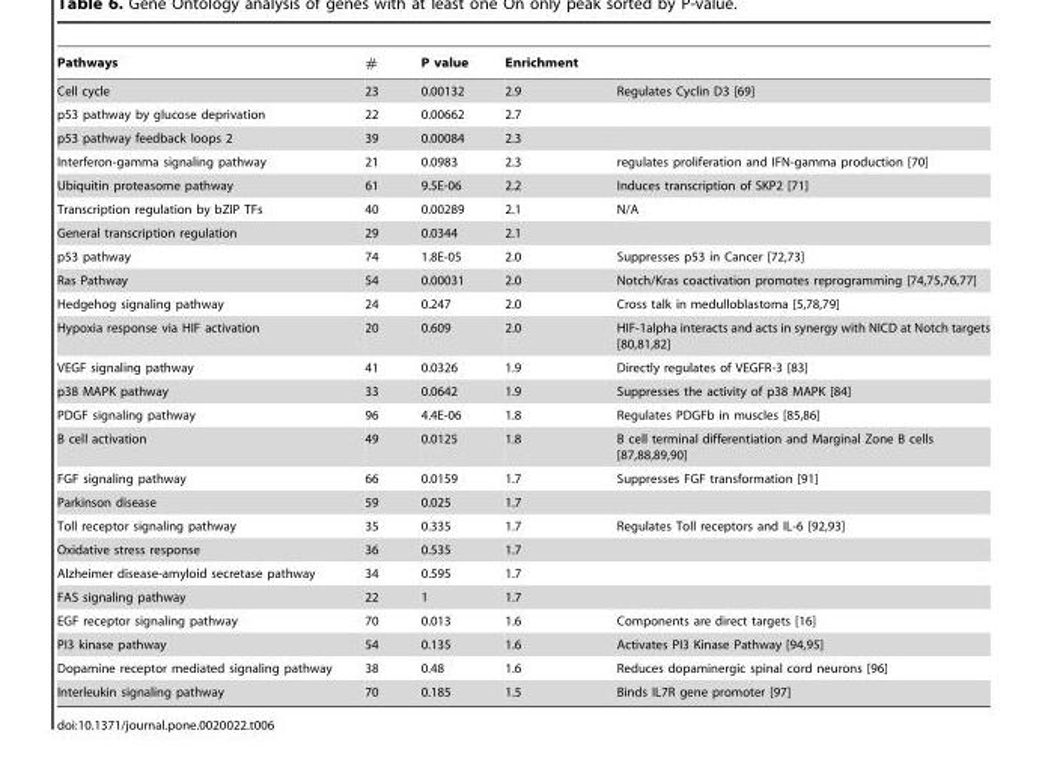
<table><thead><tr><td>Pathways</td><td>#</td><td>P value</td><td>Enrichment</td><td></td></tr></thead><tbody><tr><td>Cell cycle</td><td>23</td><td>0.00132</td><td>2.9</td><td>Regulates Cyclin D3 [69]</td></tr><tr><td>p53 pathway by glucose deprivation</td><td>22</td><td>0.00662</td><td>2.7</td><td></td></tr><tr><td>p53 pathway feedback loops 2</td><td>39</td><td>0.00084</td><td>2.3</td><td></td></tr><tr><td>Interferon-gamma signaling pathway</td><td>21</td><td>0.0983</td><td>2.3</td><td>regulates proliferation and IFN-gamma production [70]</td></tr><tr><td>Ubiquitin proteasome pathway</td><td>61</td><td>9.5E-06</td><td>2.2</td><td>Induces transcription of SKP2 [71]</td></tr><tr><td>Transcription regulation by bZIP TFs</td><td>40</td><td>0.00289</td><td>2.1</td><td>N/A</td></tr><tr><td>General transcription regulation</td><td>29</td><td>0.0344</td><td>2.1</td><td></td></tr><tr><td>p53 pathway</td><td>74</td><td>1.8E-05</td><td>2.0</td><td>Suppresses p53 in Cancer [72,73]</td></tr><tr><td>Ras Pathway</td><td>54</td><td>0.00031</td><td>2.0</td><td>Notch/Kras coactivation promotes reprogramming [74,75,76,77]</td></tr><tr><td>Hedgehog signaling pathway</td><td>24</td><td>0.247</td><td>2.0</td><td>Cross talk in medulloblastoma [5,78,79]</td></tr><tr><td>Hypoxia response via HIF activation</td><td>20</td><td>0.609</td><td>2.0</td><td>HIF-1alpha interacts and acts in synergy with NICD at Notch targets [80,81,82]</td></tr><tr><td>VEGF signaling pathway</td><td>41</td><td>0.0326</td><td>1.9</td><td>Directly regulates of VEGFR-3 [83]</td></tr><tr><td>p38 MAPK pathway</td><td>33</td><td>0.0642</td><td>1.9</td><td>Suppresses the activity of p38 MAPK [84]</td></tr><tr><td>PDGF signaling pathway</td><td>96</td><td>4.4E-06</td><td>1.8</td><td>Regulates PDGFb in muscles [85,86]</td></tr><tr><td>B cell activation</td><td>49</td><td>0.0125</td><td>1.8</td><td>B cell terminal differentiation and Marginal Zone B cells [87,88,89,90]</td></tr><tr><td>FGF signaling pathway</td><td>66</td><td>0.0159</td><td>1.7</td><td>Suppresses FGF transformation [91]</td></tr><tr><td>Parkinson disease</td><td>59</td><td>0.025</td><td>1.7</td><td></td></tr><tr><td>Toll receptor signaling pathway</td><td>35</td><td>0.335</td><td>1.7</td><td>Regulates Toll receptors and IL-6 [92,93]</td></tr><tr><td>Oxidative stress response</td><td>36</td><td>0.535</td><td>1.7</td><td></td></tr><tr><td>Alzheimer disease-amyloid secretase pathway</td><td>34</td><td>0.595</td><td>1.7</td><td></td></tr><tr><td>FAS signaling pathway</td><td>22</td><td>1</td><td>1.7</td><td></td></tr><tr><td>EGF receptor signaling pathway</td><td>70</td><td>0.013</td><td>1.6</td><td>Components are direct targets [16]</td></tr><tr><td>PI3 kinase pathway</td><td>54</td><td>0.135</td><td>1.6</td><td>Activates PI3 Kinase Pathway [94,95]</td></tr><tr><td>Dopamine receptor mediated signaling pathway</td><td>38</td><td>0.48</td><td>1.6</td><td>Reduces dopaminergic spinal cord neurons [96]</td></tr><tr><td>Interleukin signaling pathway</td><td>70</td><td>0.185</td><td>1.5</td><td>Binds IL7R gene promoter [97]</td></tr></tbody></table>